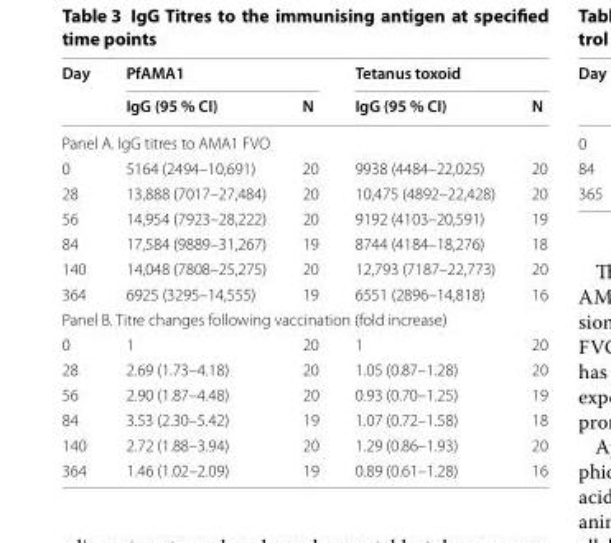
<table><thead><tr><td rowspan="2">Day</td><td colspan="2">PfAMA1</td><td colspan="2">Tetanus toxoid</td></tr><tr><td>IgG (95 % CI)</td><td>N</td><td>IgG (95 % CI)</td><td>N</td></tr></thead><tbody><tr><td colspan="5">Panel A. IgG titres to AMA1 FVO</td></tr><tr><td>0</td><td>5164 (2494–10,691)</td><td>20</td><td>9938 (4484–22,025)</td><td>20</td></tr><tr><td>28</td><td>13,888 (7017–27,484)</td><td>20</td><td>10,475 (4892–22,428)</td><td>20</td></tr><tr><td>56</td><td>14,954 (7923–28,222)</td><td>20</td><td>9192 (4103–20,591)</td><td>19</td></tr><tr><td>84</td><td>17,584 (9889–31,267)</td><td>19</td><td>8744 (4184–18,276)</td><td>18</td></tr><tr><td>140</td><td>14,048 (7808–25,275)</td><td>20</td><td>12,793 (7187–22,773)</td><td>20</td></tr><tr><td>364</td><td>6925 (3295–14,555)</td><td>19</td><td>6551 (2896–14,818)</td><td>16</td></tr><tr><td colspan="5">Panel B. Titre changes following vaccination (fold increase)</td></tr><tr><td>0</td><td>1</td><td>20</td><td>1</td><td>20</td></tr><tr><td>28</td><td>2.69 (1.73–4.18)</td><td>20</td><td>1.05 (0.87–1.28)</td><td>20</td></tr><tr><td>56</td><td>2.90 (1.87–4.48)</td><td>20</td><td>0.93 (0.70–1.25)</td><td>19</td></tr><tr><td>84</td><td>3.53 (2.30–5.42)</td><td>19</td><td>1.07 (0.72–1.58)</td><td>18</td></tr><tr><td>140</td><td>2.72 (1.88–3.94)</td><td>20</td><td>1.29 (0.86–1.93)</td><td>20</td></tr><tr><td>364</td><td>1.46 (1.02–2.09)</td><td>19</td><td>0.89 (0.61–1.28)</td><td>16</td></tr></tbody></table>